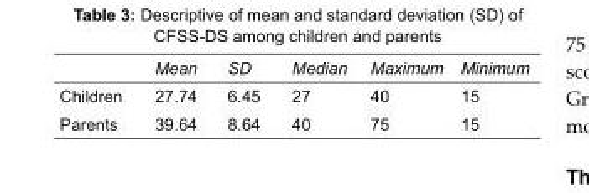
<table><thead><tr><td></td><td>Mean</td><td>SD</td><td>Median</td><td>Maximum</td><td>Minimum</td></tr></thead><tbody><tr><td>Children</td><td>27.74</td><td>6.45</td><td>27</td><td>40</td><td>15</td></tr><tr><td>Parents</td><td>39.64</td><td>8.64</td><td>40</td><td>75</td><td>15</td></tr></tbody></table>